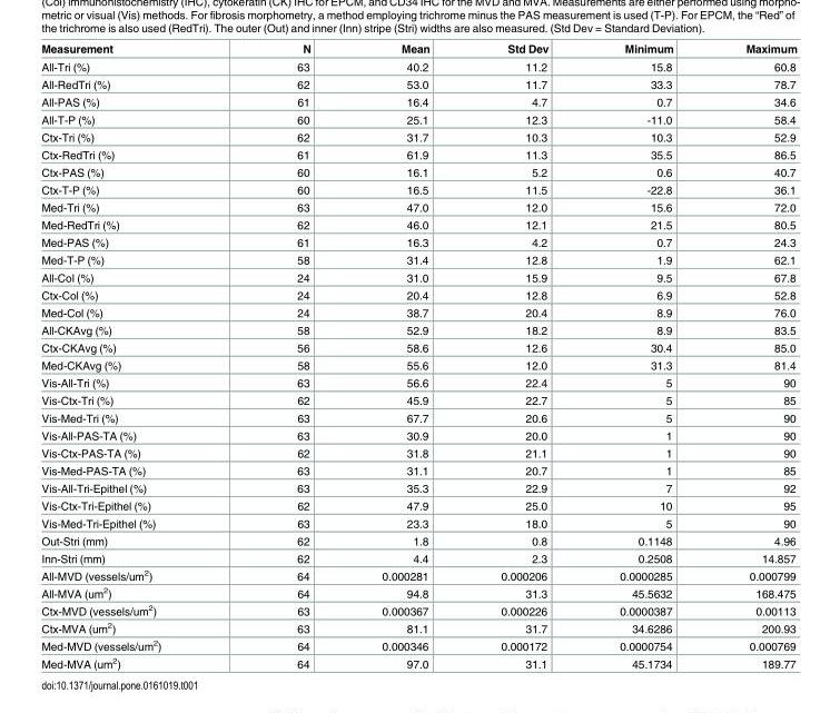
<table><thead><tr><td>Measurement</td><td>N</td><td>Mean</td><td>Std Dev</td><td>Minimum</td><td>Maximum</td></tr></thead><tbody><tr><td>All-Tri (%)</td><td>63</td><td>40.2</td><td>11.2</td><td>15.8</td><td>60.8</td></tr><tr><td>All-RedTri (%)</td><td>62</td><td>53.0</td><td>11.7</td><td>33.3</td><td>78.7</td></tr><tr><td>All-PAS (%)</td><td>61</td><td>16.4</td><td>4.7</td><td>0.7</td><td>34.6</td></tr><tr><td>All-T-P (%)</td><td>60</td><td>25.1</td><td>12.3</td><td>-11.0</td><td>58.4</td></tr><tr><td>Ctx-Tri (%)</td><td>62</td><td>31.7</td><td>10.3</td><td>10.3</td><td>52.9</td></tr><tr><td>Ctx-RedTri (%)</td><td>61</td><td>61.9</td><td>11.3</td><td>35.5</td><td>86.5</td></tr><tr><td>Ctx-PAS (%)</td><td>60</td><td>16.1</td><td>5.2</td><td>0.6</td><td>40.7</td></tr><tr><td>Ctx-T-P (%)</td><td>60</td><td>16.5</td><td>11.5</td><td>-22.8</td><td>36.1</td></tr><tr><td>Med-Tri (%)</td><td>63</td><td>47.0</td><td>12.0</td><td>15.6</td><td>72.0</td></tr><tr><td>Med-RedTri (%)</td><td>62</td><td>46.0</td><td>12.1</td><td>21.5</td><td>80.5</td></tr><tr><td>Med-PAS (%)</td><td>61</td><td>16.3</td><td>4.2</td><td>0.7</td><td>24.3</td></tr><tr><td>Med-T-P (%)</td><td>58</td><td>31.4</td><td>12.8</td><td>1.9</td><td>62.1</td></tr><tr><td>All-Col (%)</td><td>24</td><td>31.0</td><td>15.9</td><td>9.5</td><td>67.8</td></tr><tr><td>Ctx-Col (%)</td><td>24</td><td>20.4</td><td>12.8</td><td>6.9</td><td>52.8</td></tr><tr><td>Med-Col (%)</td><td>24</td><td>38.7</td><td>20.4</td><td>8.9</td><td>76.0</td></tr><tr><td>All-CKAvg (%)</td><td>58</td><td>52.9</td><td>18.2</td><td>8.9</td><td>83.5</td></tr><tr><td>Ctx-CKAvg (%)</td><td>56</td><td>58.6</td><td>12.6</td><td>30.4</td><td>85.0</td></tr><tr><td>Med-CKAvg (%)</td><td>58</td><td>55.6</td><td>12.0</td><td>31.3</td><td>81.4</td></tr><tr><td>Vis-All-Tri (%)</td><td>63</td><td>56.6</td><td>22.4</td><td>5</td><td>90</td></tr><tr><td>Vis-Ctx-Tri (%)</td><td>62</td><td>45.9</td><td>22.7</td><td>5</td><td>85</td></tr><tr><td>Vis-Med-Tri (%)</td><td>63</td><td>67.7</td><td>20.6</td><td>5</td><td>90</td></tr><tr><td>Vis-All-PAS-TA (%)</td><td>63</td><td>30.9</td><td>20.0</td><td>1</td><td>90</td></tr><tr><td>Vis-Ctx-PAS-TA (%)</td><td>62</td><td>31.8</td><td>21.1</td><td>1</td><td>90</td></tr><tr><td>Vis-Med-PAS-TA (%)</td><td>63</td><td>31.1</td><td>20.7</td><td>1</td><td>85</td></tr><tr><td>Vis-All-Tri-Epithel (%)</td><td>63</td><td>35.3</td><td>22.9</td><td>7</td><td>92</td></tr><tr><td>Vis-Ctx-Tri-Epithel (%)</td><td>62</td><td>47.9</td><td>25.0</td><td>10</td><td>95</td></tr><tr><td>Vis-Med-Tri-Epithel (%)</td><td>63</td><td>23.3</td><td>18.0</td><td>5</td><td>90</td></tr><tr><td>Out-Stri (mm)</td><td>62</td><td>1.8</td><td>0.8</td><td>0.1148</td><td>4.96</td></tr><tr><td>Inn-Stri (mm)</td><td>62</td><td>4.4</td><td>2.3</td><td>0.2508</td><td>14.857</td></tr><tr><td>All-MVD (vessels/um<sup>2</sup>)</td><td>64</td><td>0.000281</td><td>0.000206</td><td>0.0000285</td><td>0.000799</td></tr><tr><td>All-MVA (um<sup>2</sup>)</td><td>64</td><td>94.8</td><td>31.3</td><td>45.5632</td><td>168.475</td></tr><tr><td>Ctx-MVD (vessels/um<sup>2</sup>)</td><td>63</td><td>0.000367</td><td>0.000226</td><td>0.0000387</td><td>0.00113</td></tr><tr><td>Ctx-MVA (um<sup>2</sup>)</td><td>63</td><td>81.1</td><td>31.7</td><td>34.6286</td><td>200.93</td></tr><tr><td>Med-MVD (vessels/um<sup>2</sup>)</td><td>64</td><td>0.000346</td><td>0.000172</td><td>0.0000754</td><td>0.000769</td></tr><tr><td>Med-MVA (um<sup>2</sup>)</td><td>64</td><td>97.0</td><td>31.1</td><td>45.1734</td><td>189.77</td></tr></tbody></table>